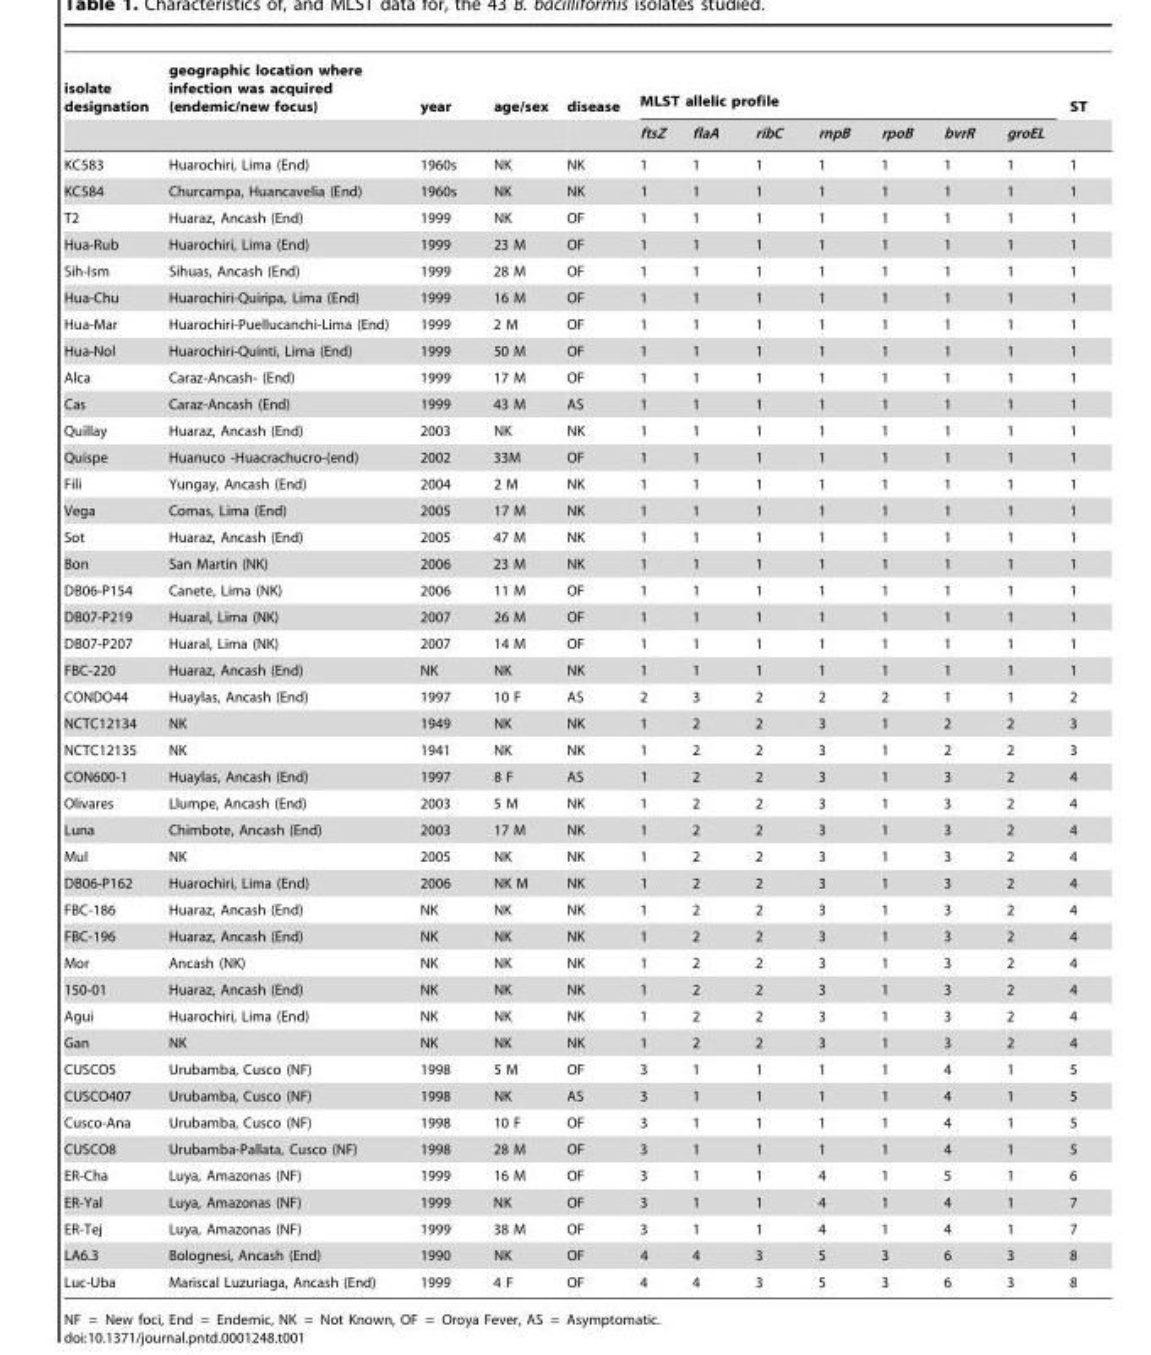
<table><thead><tr><td rowspan="2">isolate designation</td><td rowspan="2">geographic location where infection was acquired (endemic/new focus)</td><td rowspan="2">year</td><td rowspan="2">age/sex</td><td rowspan="2">disease</td><td colspan="7">MLST allelic profile</td><td rowspan="2">ST</td></tr><tr><td>ftsZ</td><td>flaA</td><td>ribC</td><td>rnpB</td><td>rpoB</td><td>bvrR</td><td>groEL</td></tr></thead><tbody><tr><td>KC583</td><td>Huarochiri, Lima (End)</td><td>1960s</td><td>NK</td><td>NK</td><td>1</td><td>1</td><td>1</td><td>1</td><td>1</td><td>1</td><td>1</td><td>1</td></tr><tr><td>KC584</td><td>Churcampa, Huancavelia (End)</td><td>1960s</td><td>NK</td><td>NK</td><td>1</td><td>1</td><td>1</td><td>1</td><td>1</td><td>1</td><td>1</td><td>1</td></tr><tr><td>T2</td><td>Huaraz, Ancash (End)</td><td>1999</td><td>NK</td><td>OF</td><td>1</td><td>1</td><td>1</td><td>1</td><td>1</td><td>1</td><td>1</td><td>1</td></tr><tr><td>Hua-Rub</td><td>Huarochiri, Lima (End)</td><td>1999</td><td>23 M</td><td>OF</td><td>1</td><td>1</td><td>1</td><td>1</td><td>1</td><td>1</td><td>1</td><td>1</td></tr><tr><td>Sih-Ism</td><td>Sihuas, Ancash (End)</td><td>1999</td><td>28 M</td><td>OF</td><td>1</td><td>1</td><td>1</td><td>1</td><td>1</td><td>1</td><td>1</td><td>1</td></tr><tr><td>Hua-Chu</td><td>Huarochiri-Quiripa, Lima (End)</td><td>1999</td><td>16 M</td><td>OF</td><td>1</td><td>1</td><td>1</td><td>1</td><td>1</td><td>1</td><td>1</td><td>1</td></tr><tr><td>Hua-Mar</td><td>Huarochiri-Puellucanchi-Lima (End)</td><td>1999</td><td>2 M</td><td>OF</td><td>1</td><td>1</td><td>1</td><td>1</td><td>1</td><td>1</td><td>1</td><td>1</td></tr><tr><td>Hua-Nol</td><td>Huarochiri-Quinti, Lima (End)</td><td>1999</td><td>50 M</td><td>OF</td><td>1</td><td>1</td><td>1</td><td>1</td><td>1</td><td>1</td><td>1</td><td>1</td></tr><tr><td>Alca</td><td>Caraz-Ancash- (End)</td><td>1999</td><td>17 M</td><td>OF</td><td>1</td><td>1</td><td>1</td><td>1</td><td>1</td><td>1</td><td>1</td><td>1</td></tr><tr><td>Cas</td><td>Caraz-Ancash (End)</td><td>1999</td><td>43 M</td><td>AS</td><td>1</td><td>1</td><td>1</td><td>1</td><td>1</td><td>1</td><td>1</td><td>1</td></tr><tr><td>Quillay</td><td>Huaraz, Ancash (End)</td><td>2003</td><td>NK</td><td>NK</td><td>1</td><td>1</td><td>1</td><td>1</td><td>1</td><td>1</td><td>1</td><td>1</td></tr><tr><td>Quispe</td><td>Huanuco -Huacrachucro-(end)</td><td>2002</td><td>33M</td><td>OF</td><td>1</td><td>1</td><td>1</td><td>1</td><td>1</td><td>1</td><td>1</td><td>1</td></tr><tr><td>Fili</td><td>Yungay, Ancash (End)</td><td>2004</td><td>2 M</td><td>NK</td><td>1</td><td>1</td><td>1</td><td>1</td><td>1</td><td>1</td><td>1</td><td>1</td></tr><tr><td>Vega</td><td>Comas, Lima (End)</td><td>2005</td><td>17 M</td><td>NK</td><td>1</td><td>1</td><td>1</td><td>1</td><td>1</td><td>1</td><td>1</td><td>1</td></tr><tr><td>Sot</td><td>Huaraz, Ancash (End)</td><td>2005</td><td>47 M</td><td>NK</td><td>1</td><td>1</td><td>1</td><td>1</td><td>1</td><td>1</td><td>1</td><td>1</td></tr><tr><td>Bon</td><td>San Martin (NK)</td><td>2006</td><td>23 M</td><td>NK</td><td>1</td><td>1</td><td>1</td><td>1</td><td>1</td><td>1</td><td>1</td><td>1</td></tr><tr><td>DB06-P154</td><td>Canete, Lima (NK)</td><td>2006</td><td>11 M</td><td>OF</td><td>1</td><td>1</td><td>1</td><td>1</td><td>1</td><td>1</td><td>1</td><td>1</td></tr><tr><td>DB07-P219</td><td>Huaral, Lima (NK)</td><td>2007</td><td>26 M</td><td>OF</td><td>1</td><td>1</td><td>1</td><td>1</td><td>1</td><td>1</td><td>1</td><td>1</td></tr><tr><td>DB07-P207</td><td>Huaral, Lima (NK)</td><td>2007</td><td>14 M</td><td>OF</td><td>1</td><td>1</td><td>1</td><td>1</td><td>1</td><td>1</td><td>1</td><td>1</td></tr><tr><td>FBC-220</td><td>Huaraz, Ancash (End)</td><td>NK</td><td>NK</td><td>NK</td><td>1</td><td>1</td><td>1</td><td>1</td><td>1</td><td>1</td><td>1</td><td>1</td></tr><tr><td>CONDO44</td><td>Huaylas, Ancash (End)</td><td>1997</td><td>10 F</td><td>AS</td><td>2</td><td>3</td><td>2</td><td>2</td><td>2</td><td>1</td><td>1</td><td>2</td></tr><tr><td>NCTC12134</td><td>NK</td><td>1949</td><td>NK</td><td>NK</td><td>1</td><td>2</td><td>2</td><td>3</td><td>1</td><td>2</td><td>2</td><td>3</td></tr><tr><td>NCTC12135</td><td>NK</td><td>1941</td><td>NK</td><td>NK</td><td>1</td><td>2</td><td>2</td><td>3</td><td>1</td><td>2</td><td>2</td><td>3</td></tr><tr><td>CON600-1</td><td>Huaylas, Ancash (End)</td><td>1997</td><td>8 F</td><td>AS</td><td>1</td><td>2</td><td>2</td><td>3</td><td>1</td><td>3</td><td>2</td><td>4</td></tr><tr><td>Olivares</td><td>Llumpe, Ancash (End)</td><td>2003</td><td>5 M</td><td>NK</td><td>1</td><td>2</td><td>2</td><td>3</td><td>1</td><td>3</td><td>2</td><td>4</td></tr><tr><td>Luna</td><td>Chimbote, Ancash (End)</td><td>2003</td><td>17 M</td><td>NK</td><td>1</td><td>2</td><td>2</td><td>3</td><td>1</td><td>3</td><td>2</td><td>4</td></tr><tr><td>Mul</td><td>NK</td><td>2005</td><td>NK</td><td>NK</td><td>1</td><td>2</td><td>2</td><td>3</td><td>1</td><td>3</td><td>2</td><td>4</td></tr><tr><td>DB06-P162</td><td>Huarochiri, Lima (End)</td><td>2006</td><td>NK M</td><td>NK</td><td>1</td><td>2</td><td>2</td><td>3</td><td>1</td><td>3</td><td>2</td><td>4</td></tr><tr><td>FBC-186</td><td>Huaraz, Ancash (End)</td><td>NK</td><td>NK</td><td>NK</td><td>1</td><td>2</td><td>2</td><td>3</td><td>1</td><td>3</td><td>2</td><td>4</td></tr><tr><td>FBC-196</td><td>Huaraz, Ancash (End)</td><td>NK</td><td>NK</td><td>NK</td><td>1</td><td>2</td><td>2</td><td>3</td><td>1</td><td>3</td><td>2</td><td>4</td></tr><tr><td>Mor</td><td>Ancash (NK)</td><td>NK</td><td>NK</td><td>NK</td><td>1</td><td>2</td><td>2</td><td>3</td><td>1</td><td>3</td><td>2</td><td>4</td></tr><tr><td>150-01</td><td>Huaraz, Ancash (End)</td><td>NK</td><td>NK</td><td>NK</td><td>1</td><td>2</td><td>2</td><td>3</td><td>1</td><td>3</td><td>2</td><td>4</td></tr><tr><td>Agui</td><td>Huarochiri, Lima (End)</td><td>NK</td><td>NK</td><td>NK</td><td>1</td><td>2</td><td>2</td><td>3</td><td>1</td><td>3</td><td>2</td><td>4</td></tr><tr><td>Gan</td><td>NK</td><td>NK</td><td>NK</td><td>NK</td><td>1</td><td>2</td><td>2</td><td>3</td><td>1</td><td>3</td><td>2</td><td>4</td></tr><tr><td>CUSCO5</td><td>Urubamba, Cusco (NF)</td><td>1998</td><td>5 M</td><td>OF</td><td>3</td><td>1</td><td>1</td><td>1</td><td>1</td><td>4</td><td>1</td><td>5</td></tr><tr><td>CUSCO407</td><td>Urubamba, Cusco (NF)</td><td>1998</td><td>NK</td><td>AS</td><td>3</td><td>1</td><td>1</td><td>1</td><td>1</td><td>4</td><td>1</td><td>5</td></tr><tr><td>Cusco-Ana</td><td>Urubamba, Cusco (NF)</td><td>1998</td><td>10 F</td><td>OF</td><td>3</td><td>1</td><td>1</td><td>1</td><td>1</td><td>4</td><td>1</td><td>5</td></tr><tr><td>CUSCO8</td><td>Urubamba-Pallata, Cusco (NF)</td><td>1998</td><td>28 M</td><td>OF</td><td>3</td><td>1</td><td>1</td><td>1</td><td>1</td><td>4</td><td>1</td><td>5</td></tr><tr><td>ER-Cha</td><td>Luya, Amazonas (NF)</td><td>1999</td><td>16 M</td><td>OF</td><td>3</td><td>1</td><td>1</td><td>4</td><td>1</td><td>5</td><td>1</td><td>6</td></tr><tr><td>ER-Yal</td><td>Luya, Amazonas (NF)</td><td>1999</td><td>NK</td><td>OF</td><td>3</td><td>1</td><td>1</td><td>4</td><td>1</td><td>4</td><td>1</td><td>7</td></tr><tr><td>ER-Tej</td><td>Luya, Amazonas (NF)</td><td>1999</td><td>38 M</td><td>OF</td><td>3</td><td>1</td><td>1</td><td>4</td><td>1</td><td>4</td><td>1</td><td>7</td></tr><tr><td>LA6.3</td><td>Bolognesi, Ancash (End)</td><td>1990</td><td>NK</td><td>OF</td><td>4</td><td>4</td><td>3</td><td>5</td><td>3</td><td>6</td><td>3</td><td>8</td></tr><tr><td>Luc-Uba</td><td>Mariscal Luzuriaga, Ancash (End)</td><td>1999</td><td>4 F</td><td>OF</td><td>4</td><td>4</td><td>3</td><td>5</td><td>3</td><td>6</td><td>3</td><td>8</td></tr></tbody></table>